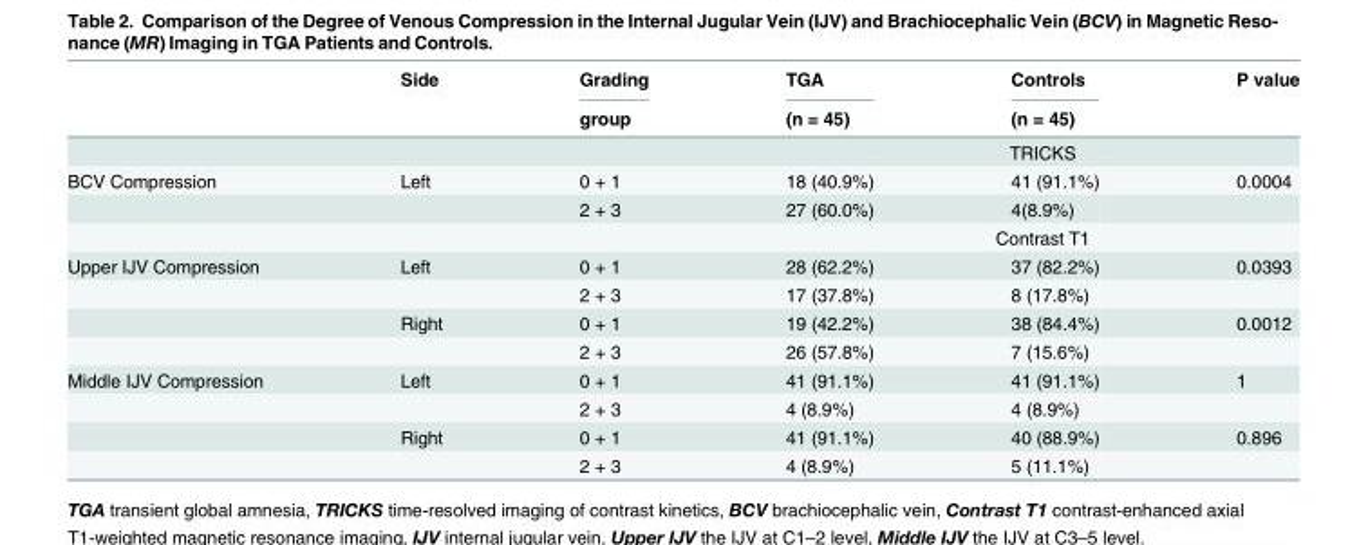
<table><thead><tr><td rowspan="2"></td><td rowspan="2">Side</td><td rowspan="2">Grading group</td><td rowspan="2">TGA (n = 45)</td><td rowspan="2">Controls (n = 45)</td><td rowspan="2">P value</td></tr><tr></tr></thead><tbody><tr><td></td><td></td><td></td><td colspan="3">TRICKS</td></tr><tr><td rowspan="3">BCV Compression</td><td>Left</td><td>0 + 1</td><td>18 (40.9%)</td><td>41 (91.1%)</td><td>0.0004</td></tr><tr><td></td><td>2 + 3</td><td>27 (60.0%)</td><td>4(8.9%)</td><td></td></tr><tr><td></td><td></td><td colspan="3">Contrast T1</td></tr><tr><td rowspan="4">Upper IJV Compression</td><td>Left</td><td>0 + 1</td><td>28 (62.2%)</td><td>37 (82.2%)</td><td>0.0393</td></tr><tr><td></td><td>2 + 3</td><td>17 (37.8%)</td><td>8 (17.8%)</td><td></td></tr><tr><td>Right</td><td>0 + 1</td><td>19 (42.2%)</td><td>38 (84.4%)</td><td>0.0012</td></tr><tr><td></td><td>2 + 3</td><td>26 (57.8%)</td><td>7 (15.6%)</td><td></td></tr><tr><td rowspan="4">Middle IJV Compression</td><td>Left</td><td>0 + 1</td><td>41 (91.1%)</td><td>41 (91.1%)</td><td>1</td></tr><tr><td></td><td>2 + 3</td><td>4 (8.9%)</td><td>4 (8.9%)</td><td></td></tr><tr><td>Right</td><td>0 + 1</td><td>41 (91.1%)</td><td>40 (88.9%)</td><td>0.896</td></tr><tr><td></td><td>2 + 3</td><td>4 (8.9%)</td><td>5 (11.1%)</td><td></td></tr></tbody></table>